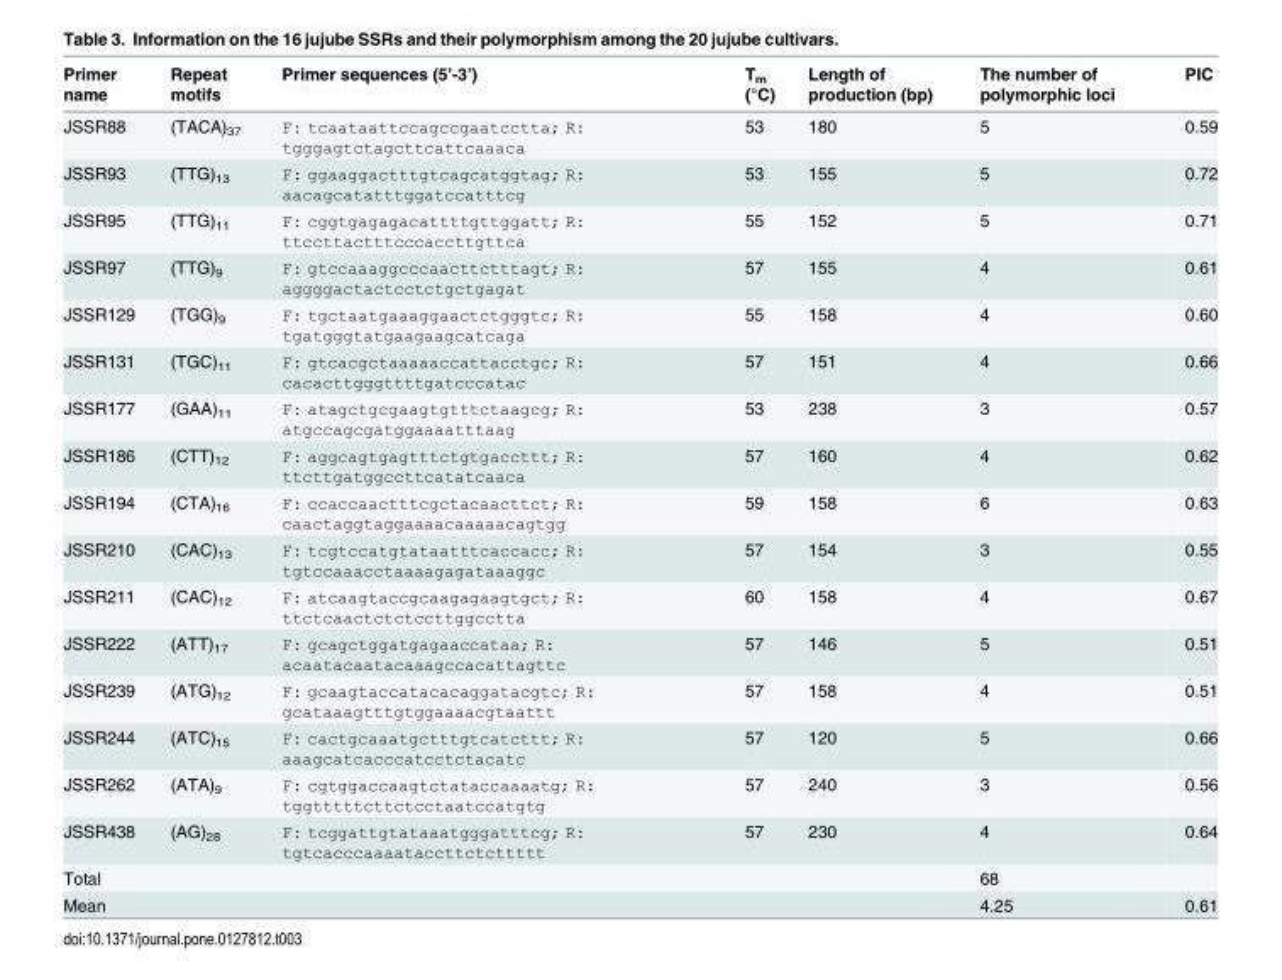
<table><thead><tr><td>Primer name</td><td>Repeat motifs</td><td>Primer sequences (5’-3’)</td><td>T<sub>m</sub> (°C)</td><td>Length of production (bp)</td><td>The number of polymorphic loci</td><td>PIC</td></tr></thead><tbody><tr><td>JSSR88</td><td>(TACA)<sub>37</sub></td><td>F: tcaataattccagccgaatcctta; R: tgggagtctagcttcattcaaaca</td><td>53</td><td>180</td><td>5</td><td>0.59</td></tr><tr><td>JSSR93</td><td>(TTG)<sub>13</sub></td><td>F: ggaaggactttgtcagcatggtag; R: aacagcatatttggatccatttcg</td><td>53</td><td>155</td><td>5</td><td>0.72</td></tr><tr><td>JSSR95</td><td>(TTG)<sub>11</sub></td><td>F: cggtgagagacattttgttggatt; R: ttccttactttcccaccttgttca</td><td>55</td><td>152</td><td>5</td><td>0.71</td></tr><tr><td>JSSR97</td><td>(TTG)<sub>9</sub></td><td>F: gtccaaaggcccaacttctttagt; R: aggggactactcctctgctgagat</td><td>57</td><td>155</td><td>4</td><td>0.61</td></tr><tr><td>JSSR129</td><td>(TGG)<sub>9</sub></td><td>F: tgctaatgaaaggaactctgggtc; R: tgatgggtatgaagaagcatcaga</td><td>55</td><td>158</td><td>4</td><td>0.60</td></tr><tr><td>JSSR131</td><td>(TGC)<sub>11</sub></td><td>F: gtcacgctaaaaaccattacctgc; R: cacacttgggttttgatcccatac</td><td>57</td><td>151</td><td>4</td><td>0.66</td></tr><tr><td>JSSR177</td><td>(GAA)<sub>11</sub></td><td>F: atagctgcgaagtgtttctaagcg; R: atgccagcgatggaaaatttaag</td><td>53</td><td>238</td><td>3</td><td>0.57</td></tr><tr><td>JSSR186</td><td>(CTT)<sub>12</sub></td><td>F: aggcagtgagtttctgtgaccttt; R: ttcttgatggccttcatatcaaca</td><td>57</td><td>160</td><td>4</td><td>0.62</td></tr><tr><td>JSSR194</td><td>(CTA)<sub>16</sub></td><td>F: ccaccaactttcgctacaacttct; R: caactaggtaggaaaacaaaaacagtgg</td><td>59</td><td>158</td><td>6</td><td>0.63</td></tr><tr><td>JSSR210</td><td>(CAC)<sub>13</sub></td><td>F: tcgtccatgtataatttcaccacc; R: tgtccaaacctaaaagagataaaggc</td><td>57</td><td>154</td><td>3</td><td>0.55</td></tr><tr><td>JSSR211</td><td>(CAC)<sub>12</sub></td><td>F: atcaagtaccgcaagagaagtgct; R: ttctcaactctctccttggcctta</td><td>60</td><td>158</td><td>4</td><td>0.67</td></tr><tr><td>JSSR222</td><td>(ATT)<sub>17</sub></td><td>F: gcagctggatgagaaccataa; R: acaatacaatacaaagccacattagttc</td><td>57</td><td>146</td><td>5</td><td>0.51</td></tr><tr><td>JSSR239</td><td>(ATG)<sub>12</sub></td><td>F: gcaagtaccatacacaggatacgtc; R: gcataaagtttgtggaaaacgtaattt</td><td>57</td><td>158</td><td>4</td><td>0.51</td></tr><tr><td>JSSR244</td><td>(ATC)<sub>15</sub></td><td>F: cactgcaaatgctttgtcatcttt; R: aaagcatcacccatcctctacatc</td><td>57</td><td>120</td><td>5</td><td>0.66</td></tr><tr><td>JSSR262</td><td>(ATA)<sub>9</sub></td><td>F: cgtggaccaagtctataccaaaatg; R: tggtttttcttctcctaatccatgtg</td><td>57</td><td>240</td><td>3</td><td>0.56</td></tr><tr><td>JSSR438</td><td>(AG)<sub>28</sub></td><td>F: tcggattgtataaatgggatttcg; R: tgtcacccaaaataccttctcttttt</td><td>57</td><td>230</td><td>4</td><td>0.64</td></tr><tr><td>Total</td><td></td><td></td><td></td><td></td><td>68</td><td></td></tr><tr><td>Mean</td><td></td><td></td><td></td><td></td><td>4.25</td><td>0.61</td></tr></tbody></table>